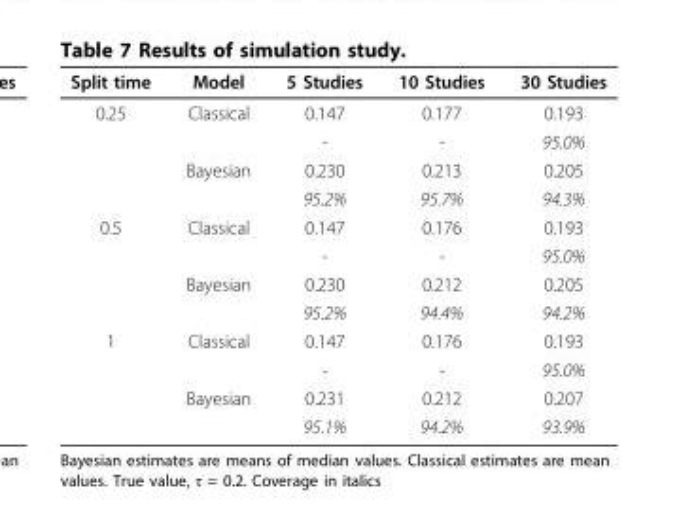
<table><thead><tr><td>Split time</td><td>Model</td><td>5 Studies</td><td>10 Studies</td><td>30 Studies</td></tr></thead><tbody><tr><td rowspan="4">0.25</td><td>Classical</td><td>0.147</td><td>0.177</td><td>0.193</td></tr><tr><td></td><td>-</td><td>-</td><td>95.0%</td></tr><tr><td>Bayesian</td><td>0.230</td><td>0.213</td><td>0.205</td></tr><tr><td></td><td>95.2%</td><td>95.7%</td><td>94.3%</td></tr><tr><td rowspan="4">0.5</td><td>Classical</td><td>0.147</td><td>0.176</td><td>0.193</td></tr><tr><td></td><td>-</td><td>-</td><td>95.0%</td></tr><tr><td>Bayesian</td><td>0.230</td><td>0.212</td><td>0.205</td></tr><tr><td></td><td>95.2%</td><td>94.4%</td><td>94.2%</td></tr><tr><td rowspan="4">1</td><td>Classical</td><td>0.147</td><td>0.176</td><td>0.193</td></tr><tr><td></td><td>-</td><td>-</td><td>95.0%</td></tr><tr><td>Bayesian</td><td>0.231</td><td>0.212</td><td>0.207</td></tr><tr><td></td><td>95.1%</td><td>94.2%</td><td>93.9%</td></tr></tbody></table>